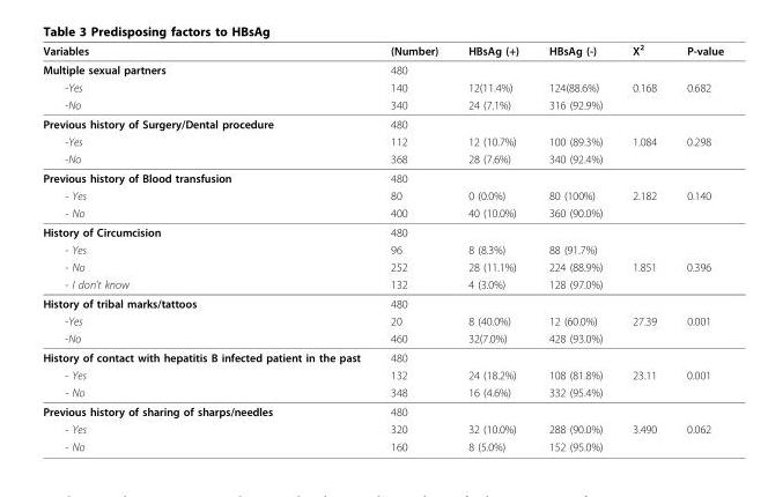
<table><thead><tr><td>Variables</td><td>(Number)</td><td>HBsAg (+)</td><td>HBsAg (-)</td><td>X<sup>2</sup></td><td>P-value</td></tr></thead><tbody><tr><td>Multiple sexual partners</td><td>480</td><td></td><td></td><td></td><td></td></tr><tr><td>-Yes</td><td>140</td><td>12(11.4%)</td><td>124(88.6%)</td><td>0.168</td><td>0.682</td></tr><tr><td>-No</td><td>340</td><td>24 (7.1%)</td><td>316 (92.9%)</td><td></td><td></td></tr><tr><td>Previous history of Surgery/Dental procedure</td><td>480</td><td></td><td></td><td></td><td></td></tr><tr><td>-Yes</td><td>112</td><td>12 (10.7%)</td><td>100 (89.3%)</td><td>1.084</td><td>0.298</td></tr><tr><td>-No</td><td>368</td><td>28 (7.6%)</td><td>340 (92.4%)</td><td></td><td></td></tr><tr><td>Previous history of Blood transfusion</td><td>480</td><td></td><td></td><td></td><td></td></tr><tr><td>- Yes</td><td>80</td><td>0 (0.0%)</td><td>80 (100%)</td><td>2.182</td><td>0.140</td></tr><tr><td>- No</td><td>400</td><td>40 (10.0%)</td><td>360 (90.0%)</td><td></td><td></td></tr><tr><td>History of Circumcision</td><td>480</td><td></td><td></td><td></td><td></td></tr><tr><td>- Yes</td><td>96</td><td>8 (8.3%)</td><td>88 (91.7%)</td><td></td><td></td></tr><tr><td>- No</td><td>252</td><td>28 (11.1%)</td><td>224 (88.9%)</td><td>1.851</td><td>0.396</td></tr><tr><td>- I don’t know</td><td>132</td><td>4 (3.0%)</td><td>128 (97.0%)</td><td></td><td></td></tr><tr><td>History of tribal marks/tattoos</td><td>480</td><td></td><td></td><td></td><td></td></tr><tr><td>-Yes</td><td>20</td><td>8 (40.0%)</td><td>12 (60.0%)</td><td>27.39</td><td>0.001</td></tr><tr><td>-No</td><td>460</td><td>32(7.0%)</td><td>428 (93.0%)</td><td></td><td></td></tr><tr><td>History of contact with hepatitis B infected patient in the past</td><td>480</td><td></td><td></td><td></td><td></td></tr><tr><td>- Yes</td><td>132</td><td>24 (18.2%)</td><td>108 (81.8%)</td><td>23.11</td><td>0.001</td></tr><tr><td>- No</td><td>348</td><td>16 (4.6%)</td><td>332 (95.4%)</td><td></td><td></td></tr><tr><td>Previous history of sharing of sharps/needles</td><td>480</td><td></td><td></td><td></td><td></td></tr><tr><td>- Yes</td><td>320</td><td>32 (10.0%)</td><td>288 (90.0%)</td><td>3.490</td><td>0.062</td></tr><tr><td>- No</td><td>160</td><td>8 (5.0%)</td><td>152 (95.0%)</td><td></td><td></td></tr></tbody></table>